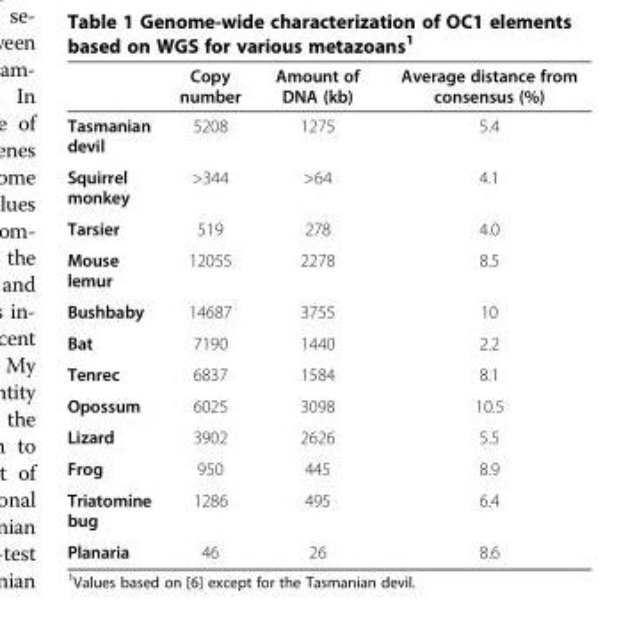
<table><thead><tr><td></td><td>Copy number</td><td>Amount of DNA (kb)</td><td>Average distance from consensus (%)</td></tr></thead><tbody><tr><td>Tasmanian devil</td><td>5208</td><td>1275</td><td>5.4</td></tr><tr><td>Squirrel monkey</td><td>&gt;344</td><td>&gt;64</td><td>4.1</td></tr><tr><td>Tarsier</td><td>519</td><td>278</td><td>4.0</td></tr><tr><td>Mouse lemur</td><td>12055</td><td>2278</td><td>8.5</td></tr><tr><td>Bushbaby</td><td>14687</td><td>3755</td><td>10</td></tr><tr><td>Bat</td><td>7190</td><td>1440</td><td>2.2</td></tr><tr><td>Tenrec</td><td>6837</td><td>1584</td><td>8.1</td></tr><tr><td>Opossum</td><td>6025</td><td>3098</td><td>10.5</td></tr><tr><td>Lizard</td><td>3902</td><td>2626</td><td>5.5</td></tr><tr><td>Frog</td><td>950</td><td>445</td><td>8.9</td></tr><tr><td>Triatomine bug</td><td>1286</td><td>495</td><td>6.4</td></tr><tr><td>Planaria</td><td>46</td><td>26</td><td>8.6</td></tr></tbody></table>